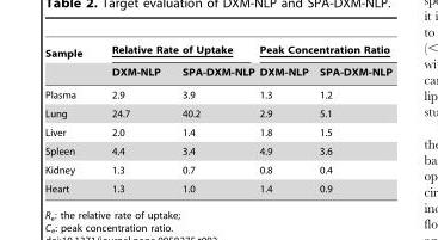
<table><thead><tr><td rowspan="2">Sample</td><td colspan="2">Relative Rate of Uptake</td><td colspan="2">Peak Concentration Ratio</td></tr><tr><td>DXM-NLP</td><td>SPA-DXM-NLP</td><td>DXM-NLP</td><td>SPA-DXM-NLP</td></tr></thead><tbody><tr><td>Plasma</td><td>2.9</td><td>3.9</td><td>1.3</td><td>1.2</td></tr><tr><td>Lung</td><td>24.7</td><td>40.2</td><td>2.9</td><td>5.1</td></tr><tr><td>Liver</td><td>2.0</td><td>1.4</td><td>1.8</td><td>1.5</td></tr><tr><td>Spleen</td><td>4.4</td><td>3.4</td><td>4.9</td><td>3.6</td></tr><tr><td>Kidney</td><td>1.3</td><td>0.7</td><td>0.8</td><td>0.4</td></tr><tr><td>Heart</td><td>1.3</td><td>1.0</td><td>1.4</td><td>0.9</td></tr></tbody></table>